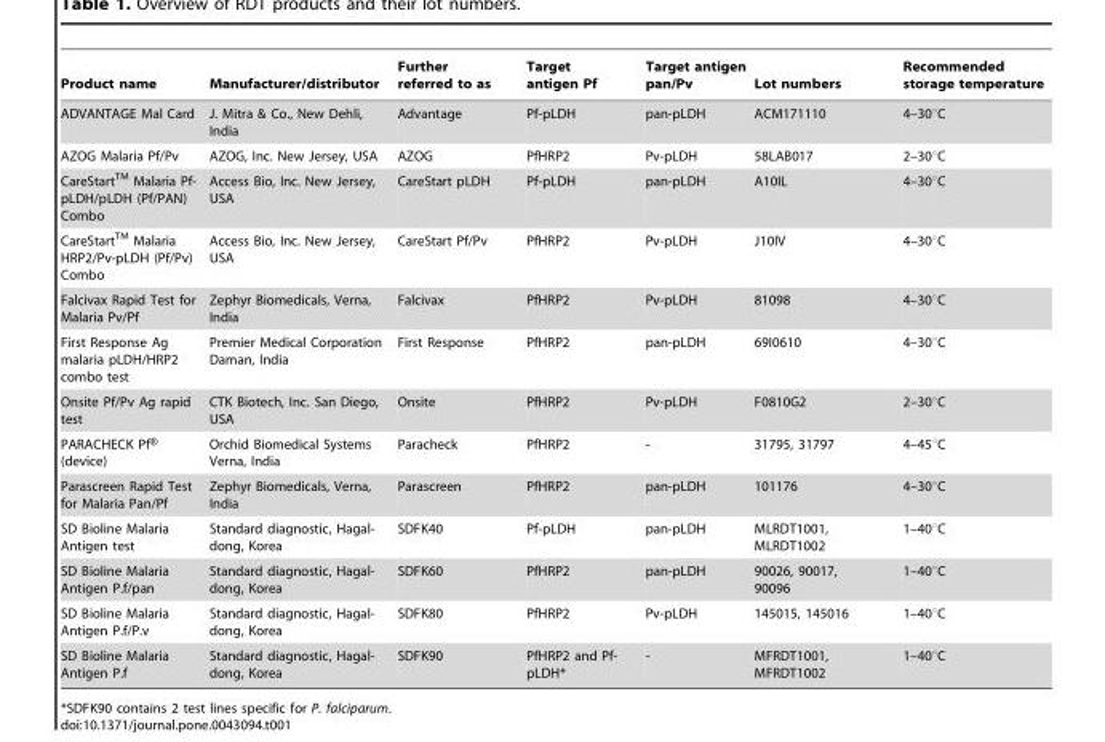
<table><thead><tr><td>Product name</td><td>Manufacturer/distributor</td><td>Further referred to as</td><td>Target antigen Pf</td><td>Target antigen pan/Pv</td><td>Lot numbers</td><td>Recommended storage temperature</td></tr></thead><tbody><tr><td>ADVANTAGE Mal Card</td><td>J. Mitra &amp; Co., New Dehli, India</td><td>Advantage</td><td>Pf-pLDH</td><td>pan-pLDH</td><td>ACM171110</td><td>4–30°C</td></tr><tr><td>AZOG Malaria Pf/Pv</td><td>AZOG, Inc. New Jersey, USA</td><td>AZOG</td><td>PfHRP2</td><td>Pv-pLDH</td><td>58LAB017</td><td>2–30°C</td></tr><tr><td>CareStartTM Malaria Pf- pLDH/pLDH (Pf/PAN) Combo</td><td>Access Bio, Inc. New Jersey, USA</td><td>CareStart pLDH</td><td>Pf-pLDH</td><td>pan-pLDH</td><td>A10IL</td><td>4–30°C</td></tr><tr><td>CareStartTM Malaria HRP2/Pv-pLDH (Pf/Pv) Combo</td><td>Access Bio, Inc. New Jersey, USA</td><td>CareStart Pf/Pv</td><td>PfHRP2</td><td>Pv-pLDH</td><td>J10IV</td><td>4–30°C</td></tr><tr><td>Falcivax Rapid Test for Malaria Pv/Pf</td><td>Zephyr Biomedicals, Verna, India</td><td>Falcivax</td><td>PfHRP2</td><td>Pv-pLDH</td><td>81098</td><td>4–30°C</td></tr><tr><td>First Response Ag malaria pLDH/HRP2 combo test</td><td>Premier Medical Corporation Daman, India</td><td>First Response</td><td>PfHRP2</td><td>pan-pLDH</td><td>69I0610</td><td>4–30°C</td></tr><tr><td>Onsite Pf/Pv Ag rapid test</td><td>CTK Biotech, Inc. San Diego, USA</td><td>Onsite</td><td>PfHRP2</td><td>Pv-pLDH</td><td>F0810G2</td><td>2–30°C</td></tr><tr><td>PARACHECK Pf® (device)</td><td>Orchid Biomedical Systems Verna, India</td><td>Paracheck</td><td>PfHRP2</td><td>-</td><td>31795, 31797</td><td>4–45°C</td></tr><tr><td>Parascreen Rapid Test for Malaria Pan/Pf</td><td>Zephyr Biomedicals, Verna, India</td><td>Parascreen</td><td>PfHRP2</td><td>pan-pLDH</td><td>101176</td><td>4–30°C</td></tr><tr><td>SD Bioline Malaria Antigen test</td><td>Standard diagnostic, Hagal- dong, Korea</td><td>SDFK40</td><td>Pf-pLDH</td><td>pan-pLDH</td><td>MLRDT1001, MLRDT1002</td><td>1–40°C</td></tr><tr><td>SD Bioline Malaria Antigen P.f/pan</td><td>Standard diagnostic, Hagal- dong, Korea</td><td>SDFK60</td><td>PfHRP2</td><td>pan-pLDH</td><td>90026, 90017, 90096</td><td>1–40°C</td></tr><tr><td>SD Bioline Malaria Antigen P.f/P.v</td><td>Standard diagnostic, Hagal- dong, Korea</td><td>SDFK80</td><td>PfHRP2</td><td>Pv-pLDH</td><td>145015, 145016</td><td>1–40°C</td></tr><tr><td>SD Bioline Malaria Antigen P.f</td><td>Standard diagnostic, Hagal- dong, Korea</td><td>SDFK90</td><td>PfHRP2 and Pf- pLDH*</td><td>-</td><td>MFRDT1001, MFRDT1002</td><td>1–40°C</td></tr></tbody></table>